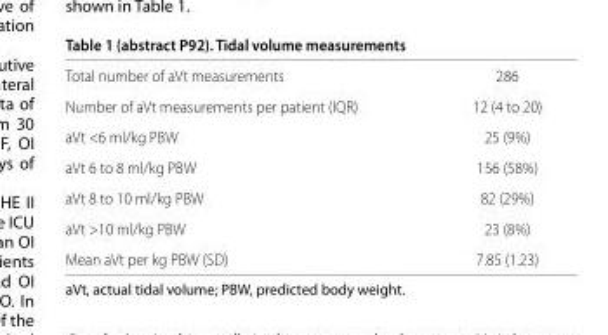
<table><tbody><tr><td>Total number of aVt measurements</td><td>286</td></tr><tr><td>Number of aVt measurements per patient (IQR)</td><td>12 (4 to 20)</td></tr><tr><td>aVt &lt;6 ml/kg PBW</td><td>25 (9%)</td></tr><tr><td>aVt 6 to 8 ml/kg PBW</td><td>156 (58%)</td></tr><tr><td>aVt 8 to 10 ml/kg PBW</td><td>82 (29%)</td></tr><tr><td>aVt &gt;10 ml/kg PBW</td><td>23 (8%)</td></tr><tr><td>Mean aVt per kg PBW (SD)</td><td>7.85 (1.23)</td></tr></tbody></table>